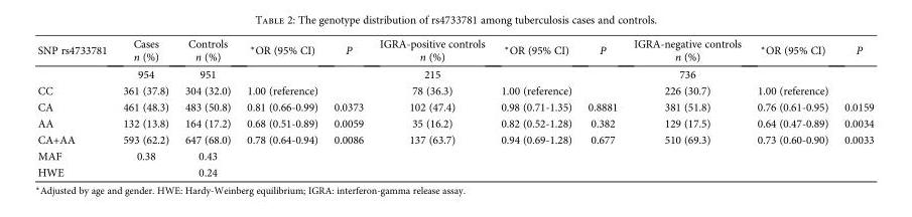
<table><thead><tr><td>SNP rs4733781</td><td>Cases n (%)</td><td>Controls n (%)</td><td>∗OR (95% CI)</td><td>P</td><td>IGRA-positive controls n (%)</td><td>∗OR (95% CI)</td><td>P</td><td>IGRA-negative controls n (%)</td><td>∗OR (95% CI)</td><td>P</td></tr></thead><tbody><tr><td></td><td>954</td><td>951</td><td></td><td></td><td>215</td><td></td><td></td><td>736</td><td></td><td></td></tr><tr><td>CC</td><td>361 (37.8)</td><td>304 (32.0)</td><td>1.00 (reference)</td><td></td><td>78 (36.3)</td><td>1.00 (reference)</td><td></td><td>226 (30.7)</td><td>1.00 (reference)</td><td></td></tr><tr><td>CA</td><td>461 (48.3)</td><td>483 (50.8)</td><td>0.81 (0.66-0.99)</td><td>0.0373</td><td>102 (47.4)</td><td>0.98 (0.71-1.35)</td><td>0.8881</td><td>381 (51.8)</td><td>0.76 (0.61-0.95)</td><td>0.0159</td></tr><tr><td>AA</td><td>132 (13.8)</td><td>164 (17.2)</td><td>0.68 (0.51-0.89)</td><td>0.0059</td><td>35 (16.2)</td><td>0.82 (0.52-1.28)</td><td>0.382</td><td>129 (17.5)</td><td>0.64 (0.47-0.89)</td><td>0.0034</td></tr><tr><td>CA+AA</td><td>593 (62.2)</td><td>647 (68.0)</td><td>0.78 (0.64-0.94)</td><td>0.0086</td><td>137 (63.7)</td><td>0.94 (0.69-1.28)</td><td>0.677</td><td>510 (69.3)</td><td>0.73 (0.60-0.90)</td><td>0.0033</td></tr><tr><td>MAF</td><td>0.38</td><td>0.43</td><td></td><td></td><td></td><td></td><td></td><td></td><td></td><td></td></tr><tr><td>HWE</td><td></td><td>0.24</td><td></td><td></td><td></td><td></td><td></td><td></td><td></td><td></td></tr></tbody></table>